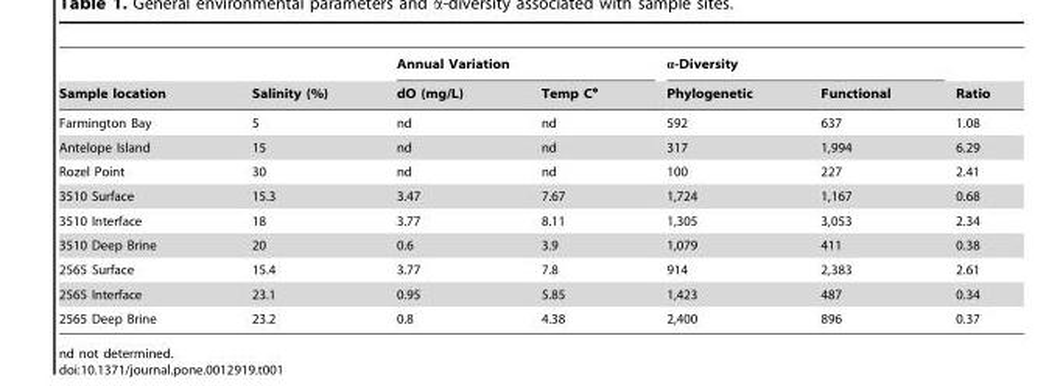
<table><thead><tr><td rowspan="2">Sample location</td><td rowspan="2">Salinity (%)</td><td colspan="2">Annual Variation</td><td colspan="2">α-Diversity</td><td rowspan="2">Ratio</td></tr><tr><td>dO (mg/L)</td><td>Temp C°</td><td>Phylogenetic</td><td>Functional</td></tr></thead><tbody><tr><td>Farmington Bay</td><td>5</td><td>nd</td><td>nd</td><td>592</td><td>637</td><td>1.08</td></tr><tr><td>Antelope Island</td><td>15</td><td>nd</td><td>nd</td><td>317</td><td>1,994</td><td>6.29</td></tr><tr><td>Rozel Point</td><td>30</td><td>nd</td><td>nd</td><td>100</td><td>227</td><td>2.41</td></tr><tr><td>3510 Surface</td><td>15.3</td><td>3.47</td><td>7.67</td><td>1,724</td><td>1,167</td><td>0.68</td></tr><tr><td>3510 Interface</td><td>18</td><td>3.77</td><td>8.11</td><td>1,305</td><td>3,053</td><td>2.34</td></tr><tr><td>3510 Deep Brine</td><td>20</td><td>0.6</td><td>3.9</td><td>1,079</td><td>411</td><td>0.38</td></tr><tr><td>2565 Surface</td><td>15.4</td><td>3.77</td><td>7.8</td><td>914</td><td>2,383</td><td>2.61</td></tr><tr><td>2565 Interface</td><td>23.1</td><td>0.95</td><td>5.85</td><td>1,423</td><td>487</td><td>0.34</td></tr><tr><td>2565 Deep Brine</td><td>23.2</td><td>0.8</td><td>4.38</td><td>2,400</td><td>896</td><td>0.37</td></tr></tbody></table>